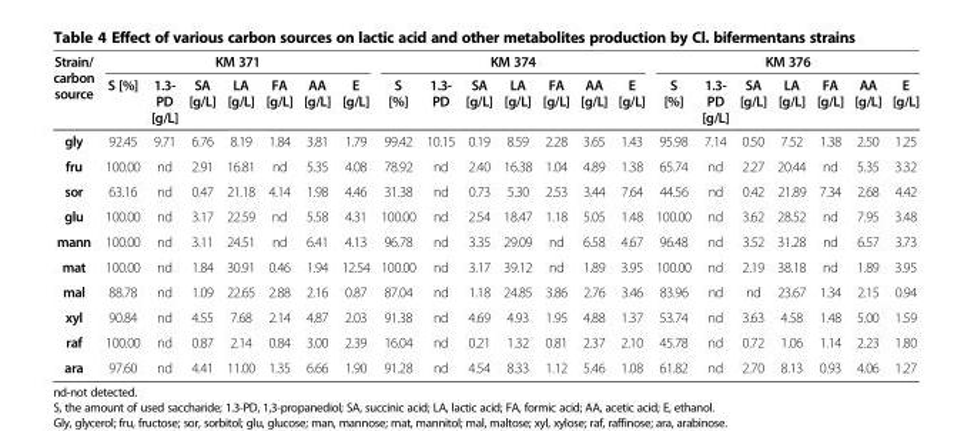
<table><thead><tr><td rowspan="2">Strain/ carbon source</td><td colspan="7">KM 371</td><td colspan="7">KM 374</td><td colspan="7">KM 376</td></tr><tr><td>S [%]</td><td>1.3- PD [g/L]</td><td>SA [g/L]</td><td>LA [g/L]</td><td>FA [g/L]</td><td>AA [g/L]</td><td>E [g/L]</td><td>S [%]</td><td>1.3- PD</td><td>SA [g/L]</td><td>LA [g/L]</td><td>FA [g/L]</td><td>AA [g/L]</td><td>E [g/L]</td><td>S [%]</td><td>1.3- PD [g/L]</td><td>SA [g/L]</td><td>LA [g/L]</td><td>FA [g/L]</td><td>AA [g/L]</td><td>E [g/L]</td></tr></thead><tbody><tr><td>gly</td><td>92.45</td><td>9.71</td><td>6.76</td><td>8.19</td><td>1.84</td><td>3.81</td><td>1.79</td><td>99.42</td><td>10.15</td><td>0.19</td><td>8.59</td><td>2.28</td><td>3.65</td><td>1.43</td><td>95.98</td><td>7.14</td><td>0.50</td><td>7.52</td><td>1.38</td><td>2.50</td><td>1.25</td></tr><tr><td>fru</td><td>100.00</td><td>nd</td><td>2.91</td><td>16.81</td><td>nd</td><td>5.35</td><td>4.08</td><td>78.92</td><td>nd</td><td>2.40</td><td>16.38</td><td>1.04</td><td>4.89</td><td>1.38</td><td>65.74</td><td>nd</td><td>2.27</td><td>20.44</td><td>nd</td><td>5.35</td><td>3.32</td></tr><tr><td>sor</td><td>63.16</td><td>nd</td><td>0.47</td><td>21.18</td><td>4.14</td><td>1.98</td><td>4.46</td><td>31.38</td><td>nd</td><td>0.73</td><td>5.30</td><td>2.53</td><td>3.44</td><td>7.64</td><td>44.56</td><td>nd</td><td>0.42</td><td>21.89</td><td>7.34</td><td>2.68</td><td>4.42</td></tr><tr><td>glu</td><td>100.00</td><td>nd</td><td>3.17</td><td>22.59</td><td>nd</td><td>5.58</td><td>4.31</td><td>100.00</td><td>nd</td><td>2.54</td><td>18.47</td><td>1.18</td><td>5.05</td><td>1.48</td><td>100.00</td><td>nd</td><td>3.62</td><td>28.52</td><td>nd</td><td>7.95</td><td>3.48</td></tr><tr><td>mann</td><td>100.00</td><td>nd</td><td>3.11</td><td>24.51</td><td>nd</td><td>6.41</td><td>4.13</td><td>96.78</td><td>nd</td><td>3.35</td><td>29.09</td><td>nd</td><td>6.58</td><td>4.67</td><td>96.48</td><td>nd</td><td>3.52</td><td>31.28</td><td>nd</td><td>6.57</td><td>3.73</td></tr><tr><td>mat</td><td>100.00</td><td>nd</td><td>1.84</td><td>30.91</td><td>0.46</td><td>1.94</td><td>12.54</td><td>100.00</td><td>nd</td><td>3.17</td><td>39.12</td><td>nd</td><td>1.89</td><td>3.95</td><td>100.00</td><td>nd</td><td>2.19</td><td>38.18</td><td>nd</td><td>1.89</td><td>3.95</td></tr><tr><td>mal</td><td>88.78</td><td>nd</td><td>1.09</td><td>22.65</td><td>2.88</td><td>2.16</td><td>0.87</td><td>87.04</td><td>nd</td><td>1.18</td><td>24.85</td><td>3.86</td><td>2.76</td><td>3.46</td><td>83.96</td><td>nd</td><td>nd</td><td>23.67</td><td>1.34</td><td>2.15</td><td>0.94</td></tr><tr><td>xyl</td><td>90.84</td><td>nd</td><td>4.55</td><td>7.68</td><td>2.14</td><td>4.87</td><td>2.03</td><td>91.38</td><td>nd</td><td>4.69</td><td>4.93</td><td>1.95</td><td>4.88</td><td>1.37</td><td>53.74</td><td>nd</td><td>3.63</td><td>4.58</td><td>1.48</td><td>5.00</td><td>1.59</td></tr><tr><td>raf</td><td>100.00</td><td>nd</td><td>0.87</td><td>2.14</td><td>0.84</td><td>3.00</td><td>2.39</td><td>16.04</td><td>nd</td><td>0.21</td><td>1.32</td><td>0.81</td><td>2.37</td><td>2.10</td><td>45.78</td><td>nd</td><td>0.72</td><td>1.06</td><td>1.14</td><td>2.23</td><td>1.80</td></tr><tr><td>ara</td><td>97.60</td><td>nd</td><td>4.41</td><td>11.00</td><td>1.35</td><td>6.66</td><td>1.90</td><td>91.28</td><td>nd</td><td>4.54</td><td>8.33</td><td>1.12</td><td>5.46</td><td>1.08</td><td>61.82</td><td>nd</td><td>2.70</td><td>8.13</td><td>0.93</td><td>4.06</td><td>1.27</td></tr></tbody></table>